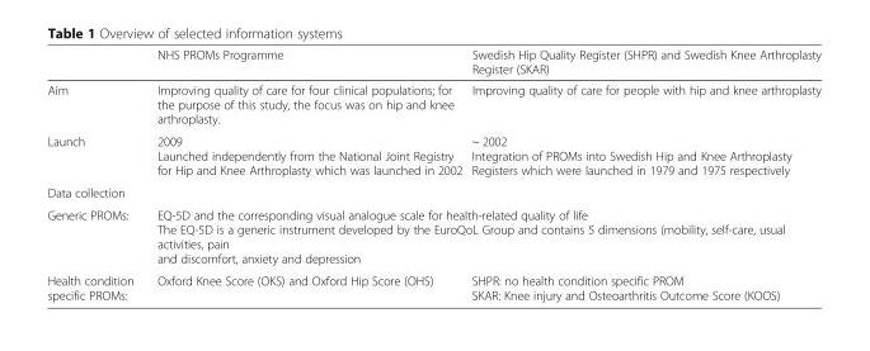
<table><thead><tr><td></td><td>NHS PROMs Programme</td><td>Swedish Hip Quality Register (SHPR) and Swedish Knee Arthroplasty Register (SKAR)</td></tr></thead><tbody><tr><td>Aim</td><td>Improving quality of care for four clinical populations; for the purpose of this study, the focus was on hip and knee arthroplasty.</td><td>Improving quality of care for people with hip and knee arthroplasty</td></tr><tr><td>Launch</td><td>2009 Launched independently from the National Joint Registry for Hip and Knee Arthroplasty which was launched in 2002</td><td>~ 2002 Integration of PROMs into Swedish Hip and Knee Arthroplasty Registers which were launched in 1979 and 1975 respectively</td></tr><tr><td colspan="3">Data collection</td></tr><tr><td>Generic PROMs:</td><td colspan="2">EQ-5D and the corresponding visual analogue scale for health-related quality of life The EQ-5D is a generic instrument developed by the EuroQoL Group and contains 5 dimensions (mobility, self-care, usual activities, pain and discomfort, anxiety and depression</td></tr><tr><td>Health condition specific PROMs:</td><td>Oxford Knee Score (OKS) and Oxford Hip Score (OHS)</td><td>SHPR: no health condition specific PROM SKAR: Knee injury and Osteoarthritis Outcome Score (KOOS)</td></tr></tbody></table>